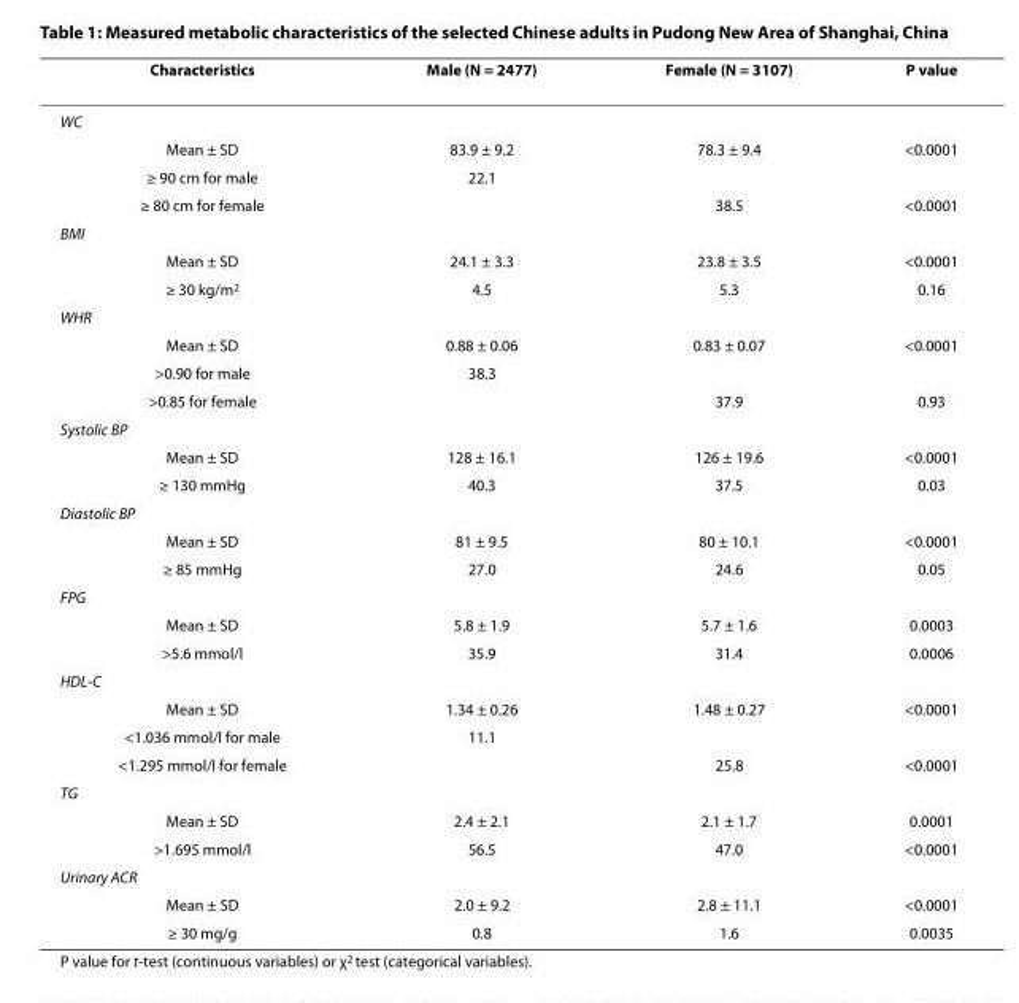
<table><thead><tr><td>Characteristics</td><td>Male (N = 2477)</td><td>Female (N = 3107)</td><td>P value</td></tr></thead><tbody><tr><td colspan="4">WC</td></tr><tr><td>Mean ± SD</td><td>83.9 ± 9.2</td><td>78.3 ± 9.4</td><td>&lt;0.0001</td></tr><tr><td>≥ 90 cm for male</td><td>22.1</td><td></td><td></td></tr><tr><td>≥ 80 cm for female</td><td></td><td>38.5</td><td>&lt;0.0001</td></tr><tr><td colspan="4">BMI</td></tr><tr><td>Mean ± SD</td><td>24.1 ± 3.3</td><td>23.8 ± 3.5</td><td>&lt;0.0001</td></tr><tr><td>≥ 30 kg/m<sup>2</sup></td><td>4.5</td><td>5.3</td><td>0.16</td></tr><tr><td colspan="4">WHR</td></tr><tr><td>Mean ± SD</td><td>0.88 ± 0.06</td><td>0.83 ± 0.07</td><td>&lt;0.0001</td></tr><tr><td>&gt;0.90 for male</td><td>38.3</td><td></td><td></td></tr><tr><td>&gt;0.85 for female</td><td></td><td>37.9</td><td>0.93</td></tr><tr><td colspan="4">Systolic BP</td></tr><tr><td>Mean ± SD</td><td>128 ± 16.1</td><td>126 ± 19.6</td><td>&lt;0.0001</td></tr><tr><td>≥ 130 mmHg</td><td>40.3</td><td>37.5</td><td>0.03</td></tr><tr><td colspan="4">Diastolic BP</td></tr><tr><td>Mean ± SD</td><td>81 ± 9.5</td><td>80 ± 10.1</td><td>&lt;0.0001</td></tr><tr><td>≥ 85 mmHg</td><td>27.0</td><td>24.6</td><td>0.05</td></tr><tr><td colspan="4">FPG</td></tr><tr><td>Mean ± SD</td><td>5.8 ± 1.9</td><td>5.7 ± 1.6</td><td>0.0003</td></tr><tr><td>&gt;5.6 mmol/l</td><td>35.9</td><td>31.4</td><td>0.0006</td></tr><tr><td colspan="4">HDL-C</td></tr><tr><td>Mean ± SD</td><td>1.34 ± 0.26</td><td>1.48 ± 0.27</td><td>&lt;0.0001</td></tr><tr><td>&lt;1.036 mmol/l for male</td><td>11.1</td><td></td><td></td></tr><tr><td>&lt;1.295 mmol/l for female</td><td></td><td>25.8</td><td>&lt;0.0001</td></tr><tr><td colspan="4">TG</td></tr><tr><td>Mean ± SD</td><td>2.4 ± 2.1</td><td>2.1 ± 1.7</td><td>0.0001</td></tr><tr><td>&gt;1.695 mmol/l</td><td>56.5</td><td>47.0</td><td>&lt;0.0001</td></tr><tr><td colspan="4">Urinary ACR</td></tr><tr><td>Mean ± SD</td><td>2.0 ± 9.2</td><td>2.8 ± 11.1</td><td>&lt;0.0001</td></tr><tr><td>≥ 30 mg/g</td><td>0.8</td><td>1.6</td><td>0.0035</td></tr></tbody></table>